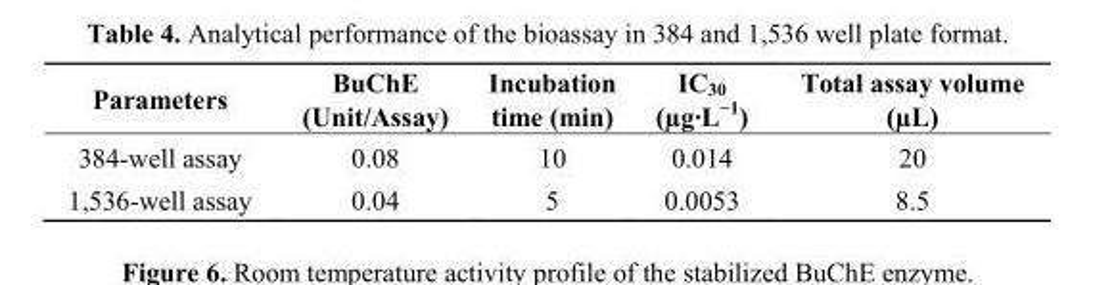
<table><thead><tr><td>Parameters</td><td>BuChE (Unit/Assay)</td><td>Incubation time (min)</td><td>IC<sub>30</sub> (µg·L<sup>−1</sup>)</td><td>Total assay volume (µL)</td></tr></thead><tbody><tr><td>384-well assay</td><td>0.08</td><td>10</td><td>0.014</td><td>20</td></tr><tr><td>1,536-well assay</td><td>0.04</td><td>5</td><td>0.0053</td><td>8.5</td></tr></tbody></table>